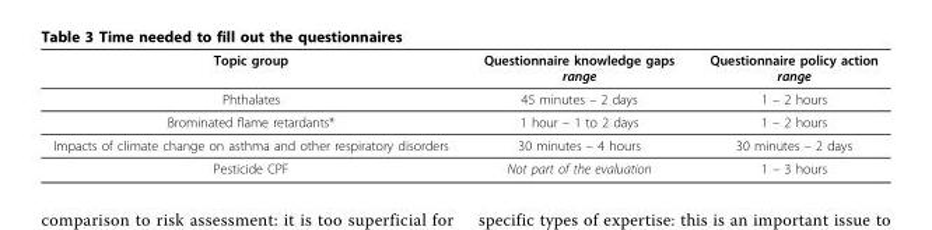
<table><thead><tr><td>Topic group</td><td>Questionnaire knowledge gaps range</td><td>Questionnaire policy action range</td></tr></thead><tbody><tr><td>Phthalates</td><td>45 minutes – 2 days</td><td>1 – 2 hours</td></tr><tr><td>Brominated flame retardants*</td><td>1 hour – 1 to 2 days</td><td>1 – 2 hours</td></tr><tr><td>Impacts of climate change on asthma and other respiratory disorders</td><td>30 minutes – 4 hours</td><td>30 minutes – 2 days</td></tr><tr><td>Pesticide CPF</td><td>Not part of the evaluation</td><td>1 – 3 hours</td></tr></tbody></table>